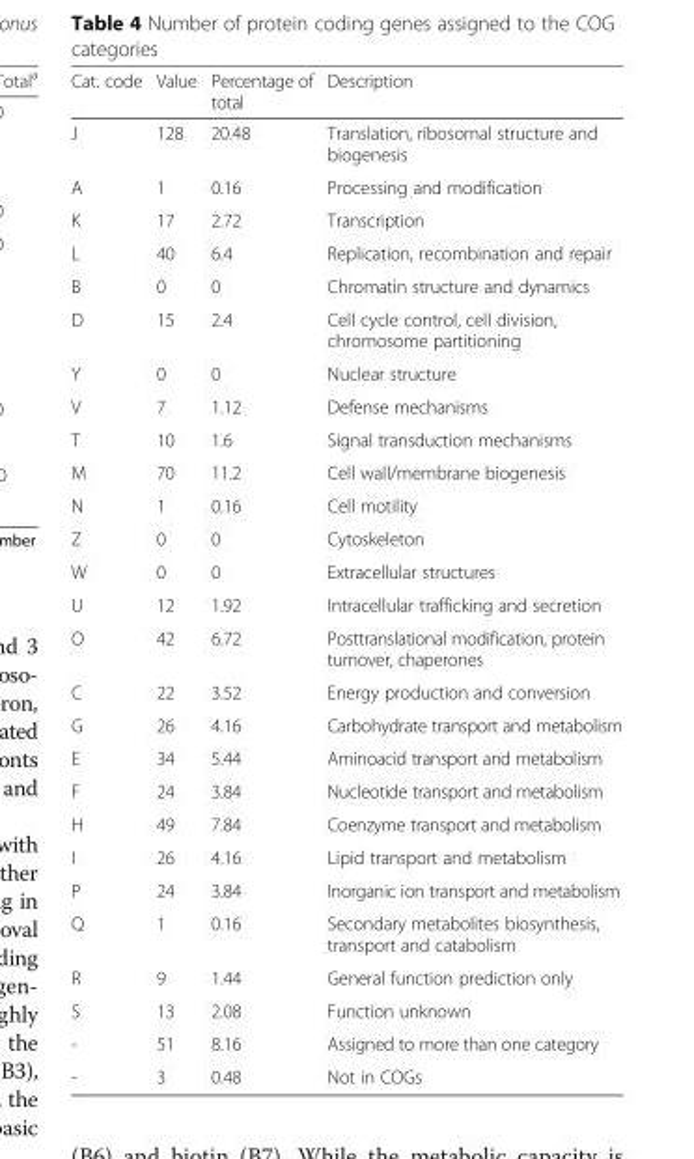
<table><thead><tr><td>Cat. code</td><td>Value</td><td>Percentage of total</td><td>Description</td></tr></thead><tbody><tr><td>J</td><td>128</td><td>20.48</td><td>Translation, ribosomal structure and biogenesis</td></tr><tr><td>A</td><td>1</td><td>0.16</td><td>Processing and modification</td></tr><tr><td>K</td><td>17</td><td>2.72</td><td>Transcription</td></tr><tr><td>L</td><td>40</td><td>6.4</td><td>Replication, recombination and repair</td></tr><tr><td>B</td><td>0</td><td>0</td><td>Chromatin structure and dynamics</td></tr><tr><td>D</td><td>15</td><td>2.4</td><td>Cell cycle control, cell division, chromosome partitioning</td></tr><tr><td>Y</td><td>0</td><td>0</td><td>Nuclear structure</td></tr><tr><td>V</td><td>7</td><td>1.12</td><td>Defense mechanisms</td></tr><tr><td>T</td><td>10</td><td>1.6</td><td>Signal transduction mechanisms</td></tr><tr><td>M</td><td>70</td><td>11.2</td><td>Cell wall/membrane biogenesis</td></tr><tr><td>N</td><td>1</td><td>0.16</td><td>Cell motility</td></tr><tr><td>Z</td><td>0</td><td>0</td><td>Cytoskeleton</td></tr><tr><td>W</td><td>0</td><td>0</td><td>Extracellular structures</td></tr><tr><td>U</td><td>12</td><td>1.92</td><td>Intracellular trafficking and secretion</td></tr><tr><td>O</td><td>42</td><td>6.72</td><td>Posttranslational modification, protein turnover, chaperones</td></tr><tr><td>C</td><td>22</td><td>3.52</td><td>Energy production and conversion</td></tr><tr><td>G</td><td>26</td><td>4.16</td><td>Carbohydrate transport and metabolism</td></tr><tr><td>E</td><td>34</td><td>5.44</td><td>Aminoacid transport and metabolism</td></tr><tr><td>F</td><td>24</td><td>3.84</td><td>Nucleotide transport and metabolism</td></tr><tr><td>H</td><td>49</td><td>7.84</td><td>Coenzyme transport and metabolism</td></tr><tr><td>I</td><td>26</td><td>4.16</td><td>Lipid transport and metabolism</td></tr><tr><td>P</td><td>24</td><td>3.84</td><td>Inorganic ion transport and metabolism</td></tr><tr><td>Q</td><td>1</td><td>0.16</td><td>Secondary metabolites biosynthesis, transport and catabolism</td></tr><tr><td>R</td><td>9</td><td>1.44</td><td>General function prediction only</td></tr><tr><td>S</td><td>13</td><td>2.08</td><td>Function unknown</td></tr><tr><td>-</td><td>51</td><td>8.16</td><td>Assigned to more than one category</td></tr><tr><td>-</td><td>3</td><td>0.48</td><td>Not in COGs</td></tr></tbody></table>